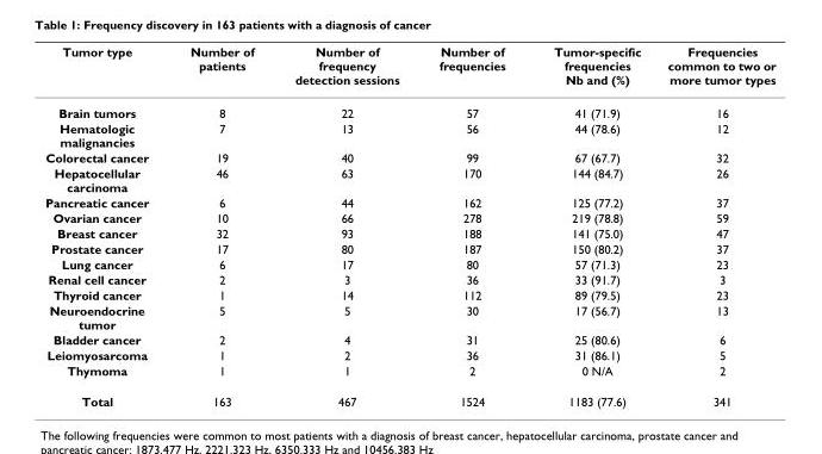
<table><thead><tr><td>Tumor type</td><td>Number of patients</td><td>Number of frequency detection sessions</td><td>Number of frequencies</td><td>Tumor-specific frequencies Nb and (%)</td><td>Frequencies common to two or more tumor types</td></tr></thead><tbody><tr><td>Brain tumors</td><td>8</td><td>22</td><td>57</td><td>41 (71.9)</td><td>16</td></tr><tr><td>Hematologic malignancies</td><td>7</td><td>13</td><td>56</td><td>44 (78.6)</td><td>12</td></tr><tr><td>Colorectal cancer</td><td>19</td><td>40</td><td>99</td><td>67 (67.7)</td><td>32</td></tr><tr><td>Hepatocellular carcinoma</td><td>46</td><td>63</td><td>170</td><td>144 (84.7)</td><td>26</td></tr><tr><td>Pancreatic cancer</td><td>6</td><td>44</td><td>162</td><td>125 (77.2)</td><td>37</td></tr><tr><td>Ovarian cancer</td><td>10</td><td>66</td><td>278</td><td>219 (78.8)</td><td>59</td></tr><tr><td>Breast cancer</td><td>32</td><td>93</td><td>188</td><td>141 (75.0)</td><td>47</td></tr><tr><td>Prostate cancer</td><td>17</td><td>80</td><td>187</td><td>150 (80.2)</td><td>37</td></tr><tr><td>Lung cancer</td><td>6</td><td>17</td><td>80</td><td>57 (71.3)</td><td>23</td></tr><tr><td>Renal cell cancer</td><td>2</td><td>3</td><td>36</td><td>33 (91.7)</td><td>3</td></tr><tr><td>Thyroid cancer</td><td>1</td><td>14</td><td>112</td><td>89 (79.5)</td><td>23</td></tr><tr><td>Neuroendocrine tumor</td><td>5</td><td>5</td><td>30</td><td>17 (56.7)</td><td>13</td></tr><tr><td>Bladder cancer</td><td>2</td><td>4</td><td>31</td><td>25 (80.6)</td><td>6</td></tr><tr><td>Leiomyosarcoma</td><td>1</td><td>2</td><td>36</td><td>31 (86.1)</td><td>5</td></tr><tr><td>Thymoma</td><td>1</td><td>1</td><td>2</td><td>0 N/A</td><td>2</td></tr><tr><td>Total</td><td>163</td><td>467</td><td>1524</td><td>1183 (77.6)</td><td>341</td></tr></tbody></table>